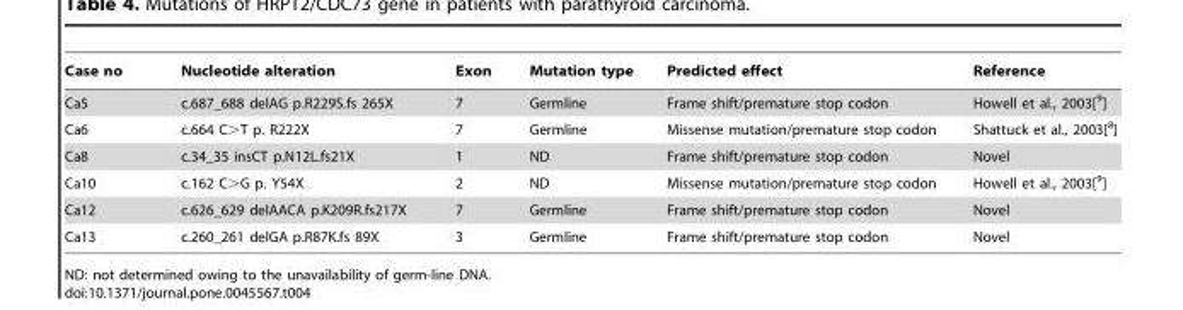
<table><thead><tr><td>Case no</td><td>Nucleotide alteration</td><td>Exon</td><td>Mutation type</td><td>Predicted effect</td><td>Reference</td></tr></thead><tbody><tr><td>Ca5</td><td>c.687_688 delAG p.R229S.fs 265X</td><td>7</td><td>Germline</td><td>Frame shift/premature stop codon</td><td>Howell et al., 2003[<sup>9</sup>]</td></tr><tr><td>Ca6</td><td>c.664 C&gt;T p. R222X</td><td>7</td><td>Germline</td><td>Missense mutation/premature stop codon</td><td>Shattuck et al., 2003[<sup>8</sup>]</td></tr><tr><td>Ca8</td><td>c.34_35 insCT p.N12L.fs21X</td><td>1</td><td>ND</td><td>Frame shift/premature stop codon</td><td>Novel</td></tr><tr><td>Ca10</td><td>c.162 C&gt;G p. Y54X</td><td>2</td><td>ND</td><td>Missense mutation/premature stop codon</td><td>Howell et al., 2003[<sup>9</sup>]</td></tr><tr><td>Ca12</td><td>c.626_629 delAACA p.K209R.fs217X</td><td>7</td><td>Germline</td><td>Frame shift/premature stop codon</td><td>Novel</td></tr><tr><td>Ca13</td><td>c.260_261 delGA p.R87K.fs 89X</td><td>3</td><td>Germline</td><td>Frame shift/premature stop codon</td><td>Novel</td></tr></tbody></table>